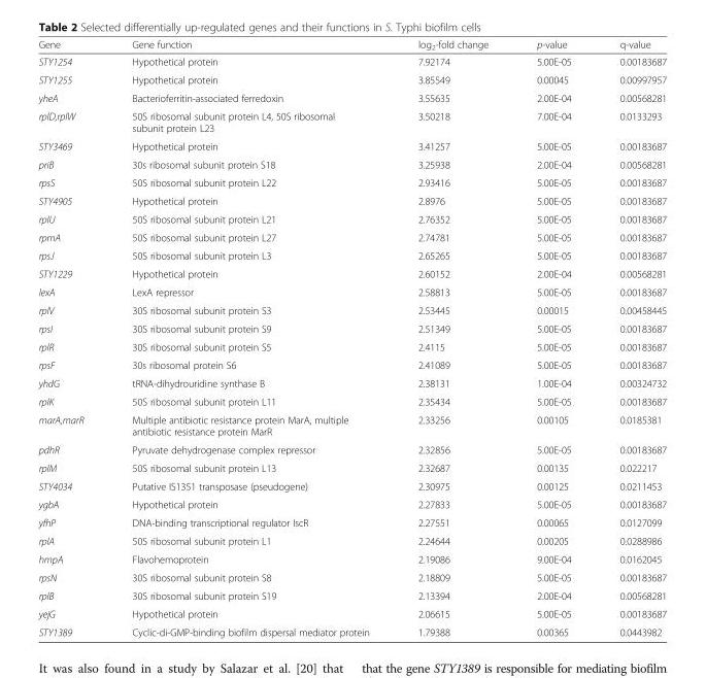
<table><thead><tr><td>Gene</td><td>Gene function</td><td>log<sub>2</sub>-fold change</td><td>p-value</td><td>q-value</td></tr></thead><tbody><tr><td>STY1254</td><td>Hypothetical protein</td><td>7.92174</td><td>5.00E-05</td><td>0.00183687</td></tr><tr><td>STY1255</td><td>Hypothetical protein</td><td>3.85549</td><td>0.00045</td><td>0.00997957</td></tr><tr><td>yheA</td><td>Bacterioferritin-associated ferredoxin</td><td>3.55635</td><td>2.00E-04</td><td>0.00568281</td></tr><tr><td>rplD,rplW</td><td>50S ribosomal subunit protein L4, 50S ribosomal subunit protein L23</td><td>3.50218</td><td>7.00E-04</td><td>0.0133293</td></tr><tr><td>STY3469</td><td>Hypothetical protein</td><td>3.41257</td><td>5.00E-05</td><td>0.00183687</td></tr><tr><td>priB</td><td>30s ribosomal subunit protein S18</td><td>3.25938</td><td>2.00E-04</td><td>0.00568281</td></tr><tr><td>rpsS</td><td>50S ribosomal subunit protein L22</td><td>2.93416</td><td>5.00E-05</td><td>0.00183687</td></tr><tr><td>STY4905</td><td>Hypothetical protein</td><td>2.8976</td><td>5.00E-05</td><td>0.00183687</td></tr><tr><td>rplU</td><td>50S ribosomal subunit protein L21</td><td>2.76352</td><td>5.00E-05</td><td>0.00183687</td></tr><tr><td>rpmA</td><td>50S ribosomal subunit protein L27</td><td>2.74781</td><td>5.00E-05</td><td>0.00183687</td></tr><tr><td>rpsJ</td><td>50S ribosomal subunit protein L3</td><td>2.65265</td><td>5.00E-05</td><td>0.00183687</td></tr><tr><td>STY1229</td><td>Hypothetical protein</td><td>2.60152</td><td>2.00E-04</td><td>0.00568281</td></tr><tr><td>lexA</td><td>LexA repressor</td><td>2.58813</td><td>5.00E-05</td><td>0.00183687</td></tr><tr><td>rplV</td><td>30S ribosomal subunit protein S3</td><td>2.53445</td><td>0.00015</td><td>0.00458445</td></tr><tr><td>rpsI</td><td>30S ribosomal subunit protein S9</td><td>2.51349</td><td>5.00E-05</td><td>0.00183687</td></tr><tr><td>rplR</td><td>30S ribosomal subunit protein S5</td><td>2.4115</td><td>5.00E-05</td><td>0.00183687</td></tr><tr><td>rpsF</td><td>30s ribosomal protein S6</td><td>2.41089</td><td>5.00E-05</td><td>0.00183687</td></tr><tr><td>yhdG</td><td>tRNA-dihydrouridine synthase B</td><td>2.38131</td><td>1.00E-04</td><td>0.00324732</td></tr><tr><td>rplK</td><td>50S ribosomal subunit protein L11</td><td>2.35434</td><td>5.00E-05</td><td>0.00183687</td></tr><tr><td>marA,marR</td><td>Multiple antibiotic resistance protein MarA, multiple antibiotic resistance protein MarR</td><td>2.33256</td><td>0.00105</td><td>0.0185381</td></tr><tr><td>pdhR</td><td>Pyruvate dehydrogenase complex repressor</td><td>2.32856</td><td>5.00E-05</td><td>0.00183687</td></tr><tr><td>rplM</td><td>50S ribosomal subunit protein L13</td><td>2.32687</td><td>0.00135</td><td>0.022217</td></tr><tr><td>STY4034</td><td>Putative IS1351 transposase (pseudogene)</td><td>2.30975</td><td>0.00125</td><td>0.0211453</td></tr><tr><td>ygbA</td><td>Hypothetical protein</td><td>2.27833</td><td>5.00E-05</td><td>0.00183687</td></tr><tr><td>yfhP</td><td>DNA-binding transcriptional regulator IscR</td><td>2.27551</td><td>0.00065</td><td>0.0127099</td></tr><tr><td>rplA</td><td>50S ribosomal subunit protein L1</td><td>2.24644</td><td>0.00205</td><td>0.0288986</td></tr><tr><td>hmpA</td><td>Flavohemoprotein</td><td>2.19086</td><td>9.00E-04</td><td>0.0162045</td></tr><tr><td>rpsN</td><td>30S ribosomal subunit protein S8</td><td>2.18809</td><td>5.00E-05</td><td>0.00183687</td></tr><tr><td>rplB</td><td>30S ribosomal subunit protein S19</td><td>2.13394</td><td>2.00E-04</td><td>0.00568281</td></tr><tr><td>yejG</td><td>Hypothetical protein</td><td>2.06615</td><td>5.00E-05</td><td>0.00183687</td></tr><tr><td>STY1389</td><td>Cyclic-di-GMP-binding biofilm dispersal mediator protein</td><td>1.79388</td><td>0.00365</td><td>0.0443982</td></tr></tbody></table>